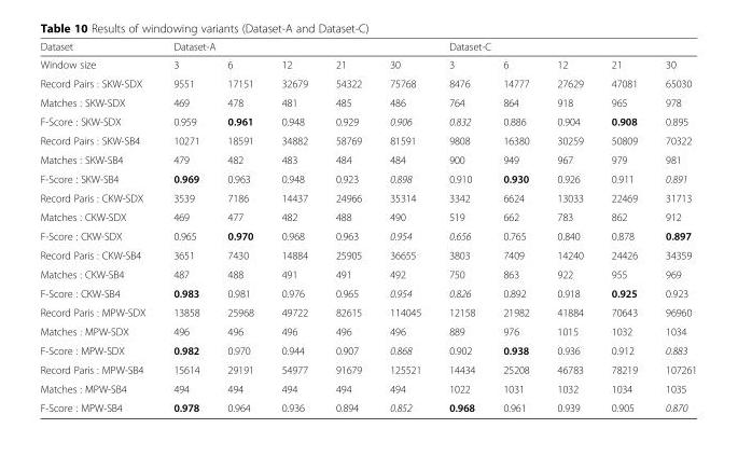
<table><thead><tr><td rowspan="2">Dataset Window size</td><td colspan="5">Dataset-A</td><td colspan="5">Dataset-C</td></tr><tr><td>3</td><td>6</td><td>12</td><td>21</td><td>30</td><td>3</td><td>6</td><td>12</td><td>21</td><td>30</td></tr></thead><tbody><tr><td>Record Pairs : SKW-SDX</td><td>9551</td><td>17151</td><td>32679</td><td>54322</td><td>75768</td><td>8476</td><td>14777</td><td>27629</td><td>47081</td><td>65030</td></tr><tr><td>Matches : SKW-SDX</td><td>469</td><td>478</td><td>481</td><td>485</td><td>486</td><td>764</td><td>864</td><td>918</td><td>965</td><td>978</td></tr><tr><td>F-Score : SKW-SDX</td><td>0.959</td><td>0.961</td><td>0.948</td><td>0.929</td><td>0.906</td><td>0.832</td><td>0.886</td><td>0.904</td><td>0.908</td><td>0.895</td></tr><tr><td>Record Pairs : SKW-SB4</td><td>10271</td><td>18591</td><td>34882</td><td>58769</td><td>81591</td><td>9808</td><td>16380</td><td>30259</td><td>50809</td><td>70322</td></tr><tr><td>Matches : SKW-SB4</td><td>479</td><td>482</td><td>483</td><td>484</td><td>484</td><td>900</td><td>949</td><td>967</td><td>979</td><td>981</td></tr><tr><td>F-Score : SKW-SB4</td><td>0.969</td><td>0.963</td><td>0.948</td><td>0.923</td><td>0.898</td><td>0.910</td><td>0.930</td><td>0.926</td><td>0.911</td><td>0.891</td></tr><tr><td>Record Paris : CKW-SDX</td><td>3539</td><td>7186</td><td>14437</td><td>24966</td><td>35314</td><td>3342</td><td>6624</td><td>13033</td><td>22469</td><td>31713</td></tr><tr><td>Matches : CKW-SDX</td><td>469</td><td>477</td><td>482</td><td>488</td><td>490</td><td>519</td><td>662</td><td>783</td><td>862</td><td>912</td></tr><tr><td>F-Score : CKW-SDX</td><td>0.965</td><td>0.970</td><td>0.968</td><td>0.963</td><td>0.954</td><td>0.656</td><td>0.765</td><td>0.840</td><td>0.878</td><td>0.897</td></tr><tr><td>Record Paris : CKW-SB4</td><td>3651</td><td>7430</td><td>14884</td><td>25905</td><td>36655</td><td>3803</td><td>7409</td><td>14240</td><td>24426</td><td>34359</td></tr><tr><td>Matches : CKW-SB4</td><td>487</td><td>488</td><td>491</td><td>491</td><td>492</td><td>750</td><td>863</td><td>922</td><td>955</td><td>969</td></tr><tr><td>F-Score : CKW-SB4</td><td>0.983</td><td>0.981</td><td>0.976</td><td>0.965</td><td>0.954</td><td>0.826</td><td>0.892</td><td>0.918</td><td>0.925</td><td>0.923</td></tr><tr><td>Record Paris : MPW-SDX</td><td>13858</td><td>25968</td><td>49722</td><td>82615</td><td>114045</td><td>12158</td><td>21982</td><td>41884</td><td>70643</td><td>96960</td></tr><tr><td>Matches : MPW-SDX</td><td>496</td><td>496</td><td>496</td><td>496</td><td>496</td><td>889</td><td>976</td><td>1015</td><td>1032</td><td>1034</td></tr><tr><td>F-Score : MPW-SDX</td><td>0.982</td><td>0.970</td><td>0.944</td><td>0.907</td><td>0.868</td><td>0.902</td><td>0.938</td><td>0.936</td><td>0.912</td><td>0.883</td></tr><tr><td>Record Paris : MPW-SB4</td><td>15614</td><td>29191</td><td>54977</td><td>91679</td><td>125521</td><td>14434</td><td>25208</td><td>46783</td><td>78219</td><td>107261</td></tr><tr><td>Matches : MPW-SB4</td><td>494</td><td>494</td><td>494</td><td>494</td><td>494</td><td>1022</td><td>1031</td><td>1032</td><td>1034</td><td>1035</td></tr><tr><td>F-Score : MPW-SB4</td><td>0.978</td><td>0.964</td><td>0.936</td><td>0.894</td><td>0.852</td><td>0.968</td><td>0.961</td><td>0.939</td><td>0.905</td><td>0.870</td></tr></tbody></table>